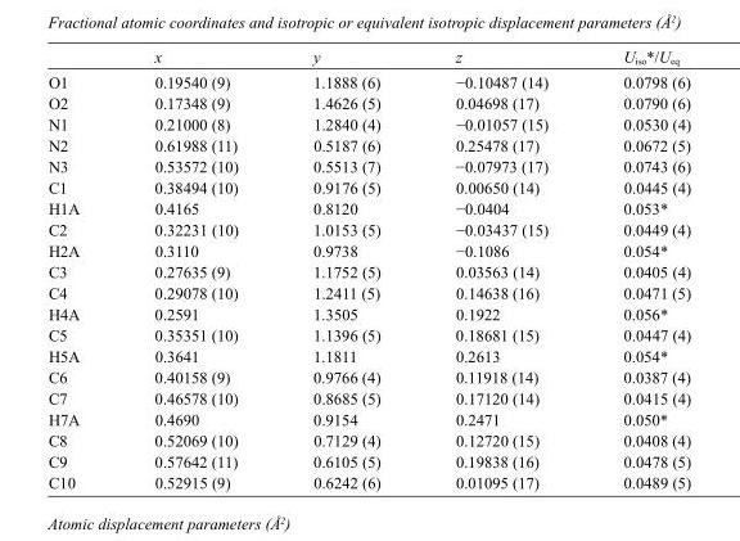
<table><thead><tr><td></td><td>x</td><td>y</td><td>z</td><td>U<sub>iso</sub>*/U<sub>eq</sub></td></tr></thead><tbody><tr><td>O1</td><td>0.19540 (9)</td><td>1.1888 (6)</td><td>−0.10487 (14)</td><td>0.0798 (6)</td></tr><tr><td>O2</td><td>0.17348 (9)</td><td>1.4626 (5)</td><td>0.04698 (17)</td><td>0.0790 (6)</td></tr><tr><td>N1</td><td>0.21000 (8)</td><td>1.2840 (4)</td><td>−0.01057 (15)</td><td>0.0530 (4)</td></tr><tr><td>N2</td><td>0.61988 (11)</td><td>0.5187 (6)</td><td>0.25478 (17)</td><td>0.0672 (5)</td></tr><tr><td>N3</td><td>0.53572 (10)</td><td>0.5513 (7)</td><td>−0.07973 (17)</td><td>0.0743 (6)</td></tr><tr><td>C1</td><td>0.38494 (10)</td><td>0.9176 (5)</td><td>0.00650 (14)</td><td>0.0445 (4)</td></tr><tr><td>H1A</td><td>0.4165</td><td>0.8120</td><td>−0.0404</td><td>0.053*</td></tr><tr><td>C2</td><td>0.32231 (10)</td><td>1.0153 (5)</td><td>−0.03437 (15)</td><td>0.0449 (4)</td></tr><tr><td>H2A</td><td>0.3110</td><td>0.9738</td><td>−0.1086</td><td>0.054*</td></tr><tr><td>C3</td><td>0.27635 (9)</td><td>1.1752 (5)</td><td>0.03563 (14)</td><td>0.0405 (4)</td></tr><tr><td>C4</td><td>0.29078 (10)</td><td>1.2411 (5)</td><td>0.14638 (16)</td><td>0.0471 (5)</td></tr><tr><td>H4A</td><td>0.2591</td><td>1.3505</td><td>0.1922</td><td>0.056*</td></tr><tr><td>C5</td><td>0.35351 (10)</td><td>1.1396 (5)</td><td>0.18681 (15)</td><td>0.0447 (4)</td></tr><tr><td>H5A</td><td>0.3641</td><td>1.1811</td><td>0.2613</td><td>0.054*</td></tr><tr><td>C6</td><td>0.40158 (9)</td><td>0.9766 (4)</td><td>0.11918 (14)</td><td>0.0387 (4)</td></tr><tr><td>C7</td><td>0.46578 (10)</td><td>0.8685 (5)</td><td>0.17120 (14)</td><td>0.0415 (4)</td></tr><tr><td>H7A</td><td>0.4690</td><td>0.9154</td><td>0.2471</td><td>0.050*</td></tr><tr><td>C8</td><td>0.52069 (10)</td><td>0.7129 (4)</td><td>0.12720 (15)</td><td>0.0408 (4)</td></tr><tr><td>C9</td><td>0.57642 (11)</td><td>0.6105 (5)</td><td>0.19838 (16)</td><td>0.0478 (5)</td></tr><tr><td>C10</td><td>0.52915 (9)</td><td>0.6242 (6)</td><td>0.01095 (17)</td><td>0.0489 (5)</td></tr></tbody></table>